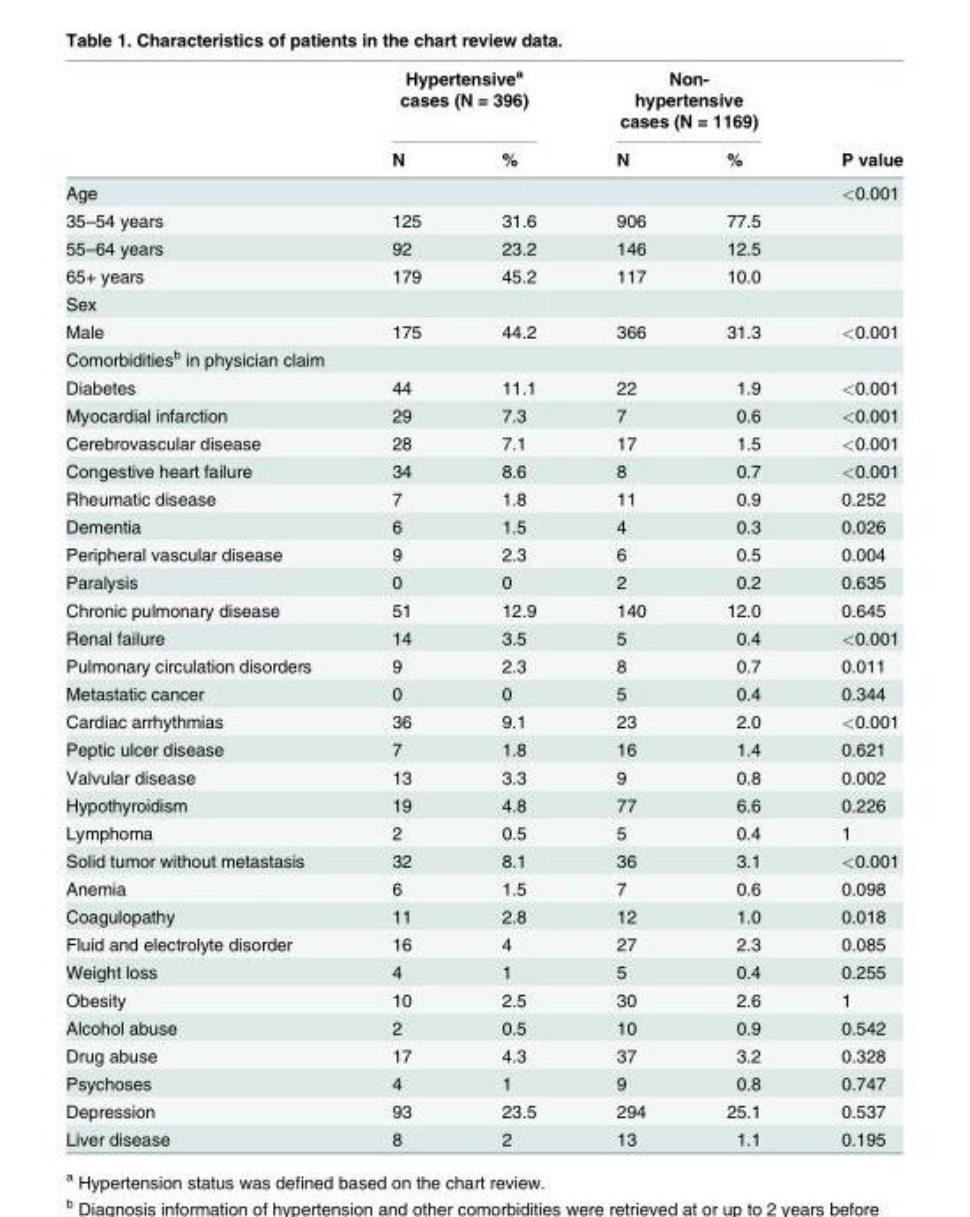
<table><thead><tr><td rowspan="2"></td><td colspan="2">Hypertensive<sup>a</sup> cases (N = 396)</td><td colspan="2">Non- hypertensive cases (N = 1169)</td><td rowspan="2">P value</td></tr><tr><td>N</td><td>%</td><td>N</td><td>%</td></tr></thead><tbody><tr><td>Age</td><td></td><td></td><td></td><td></td><td>&lt;0.001</td></tr><tr><td>35–54 years</td><td>125</td><td>31.6</td><td>906</td><td>77.5</td><td></td></tr><tr><td>55–64 years</td><td>92</td><td>23.2</td><td>146</td><td>12.5</td><td></td></tr><tr><td>65+ years</td><td>179</td><td>45.2</td><td>117</td><td>10.0</td><td></td></tr><tr><td colspan="6">Sex</td></tr><tr><td>Male</td><td>175</td><td>44.2</td><td>366</td><td>31.3</td><td>&lt;0.001</td></tr><tr><td colspan="6">Comorbidities<sup>b</sup> in physician claim</td></tr><tr><td>Diabetes</td><td>44</td><td>11.1</td><td>22</td><td>1.9</td><td>&lt;0.001</td></tr><tr><td>Myocardial infarction</td><td>29</td><td>7.3</td><td>7</td><td>0.6</td><td>&lt;0.001</td></tr><tr><td>Cerebrovascular disease</td><td>28</td><td>7.1</td><td>17</td><td>1.5</td><td>&lt;0.001</td></tr><tr><td>Congestive heart failure</td><td>34</td><td>8.6</td><td>8</td><td>0.7</td><td>&lt;0.001</td></tr><tr><td>Rheumatic disease</td><td>7</td><td>1.8</td><td>11</td><td>0.9</td><td>0.252</td></tr><tr><td>Dementia</td><td>6</td><td>1.5</td><td>4</td><td>0.3</td><td>0.026</td></tr><tr><td>Peripheral vascular disease</td><td>9</td><td>2.3</td><td>6</td><td>0.5</td><td>0.004</td></tr><tr><td>Paralysis</td><td>0</td><td>0</td><td>2</td><td>0.2</td><td>0.635</td></tr><tr><td>Chronic pulmonary disease</td><td>51</td><td>12.9</td><td>140</td><td>12.0</td><td>0.645</td></tr><tr><td>Renal failure</td><td>14</td><td>3.5</td><td>5</td><td>0.4</td><td>&lt;0.001</td></tr><tr><td>Pulmonary circulation disorders</td><td>9</td><td>2.3</td><td>8</td><td>0.7</td><td>0.011</td></tr><tr><td>Metastatic cancer</td><td>0</td><td>0</td><td>5</td><td>0.4</td><td>0.344</td></tr><tr><td>Cardiac arrhythmias</td><td>36</td><td>9.1</td><td>23</td><td>2.0</td><td>&lt;0.001</td></tr><tr><td>Peptic ulcer disease</td><td>7</td><td>1.8</td><td>16</td><td>1.4</td><td>0.621</td></tr><tr><td>Valvular disease</td><td>13</td><td>3.3</td><td>9</td><td>0.8</td><td>0.002</td></tr><tr><td>Hypothyroidism</td><td>19</td><td>4.8</td><td>77</td><td>6.6</td><td>0.226</td></tr><tr><td>Lymphoma</td><td>2</td><td>0.5</td><td>5</td><td>0.4</td><td>1</td></tr><tr><td>Solid tumor without metastasis</td><td>32</td><td>8.1</td><td>36</td><td>3.1</td><td>&lt;0.001</td></tr><tr><td>Anemia</td><td>6</td><td>1.5</td><td>7</td><td>0.6</td><td>0.098</td></tr><tr><td>Coagulopathy</td><td>11</td><td>2.8</td><td>12</td><td>1.0</td><td>0.018</td></tr><tr><td>Fluid and electrolyte disorder</td><td>16</td><td>4</td><td>27</td><td>2.3</td><td>0.085</td></tr><tr><td>Weight loss</td><td>4</td><td>1</td><td>5</td><td>0.4</td><td>0.255</td></tr><tr><td>Obesity</td><td>10</td><td>2.5</td><td>30</td><td>2.6</td><td>1</td></tr><tr><td>Alcohol abuse</td><td>2</td><td>0.5</td><td>10</td><td>0.9</td><td>0.542</td></tr><tr><td>Drug abuse</td><td>17</td><td>4.3</td><td>37</td><td>3.2</td><td>0.328</td></tr><tr><td>Psychoses</td><td>4</td><td>1</td><td>9</td><td>0.8</td><td>0.747</td></tr><tr><td>Depression</td><td>93</td><td>23.5</td><td>294</td><td>25.1</td><td>0.537</td></tr><tr><td>Liver disease</td><td>8</td><td>2</td><td>13</td><td>1.1</td><td>0.195</td></tr></tbody></table>